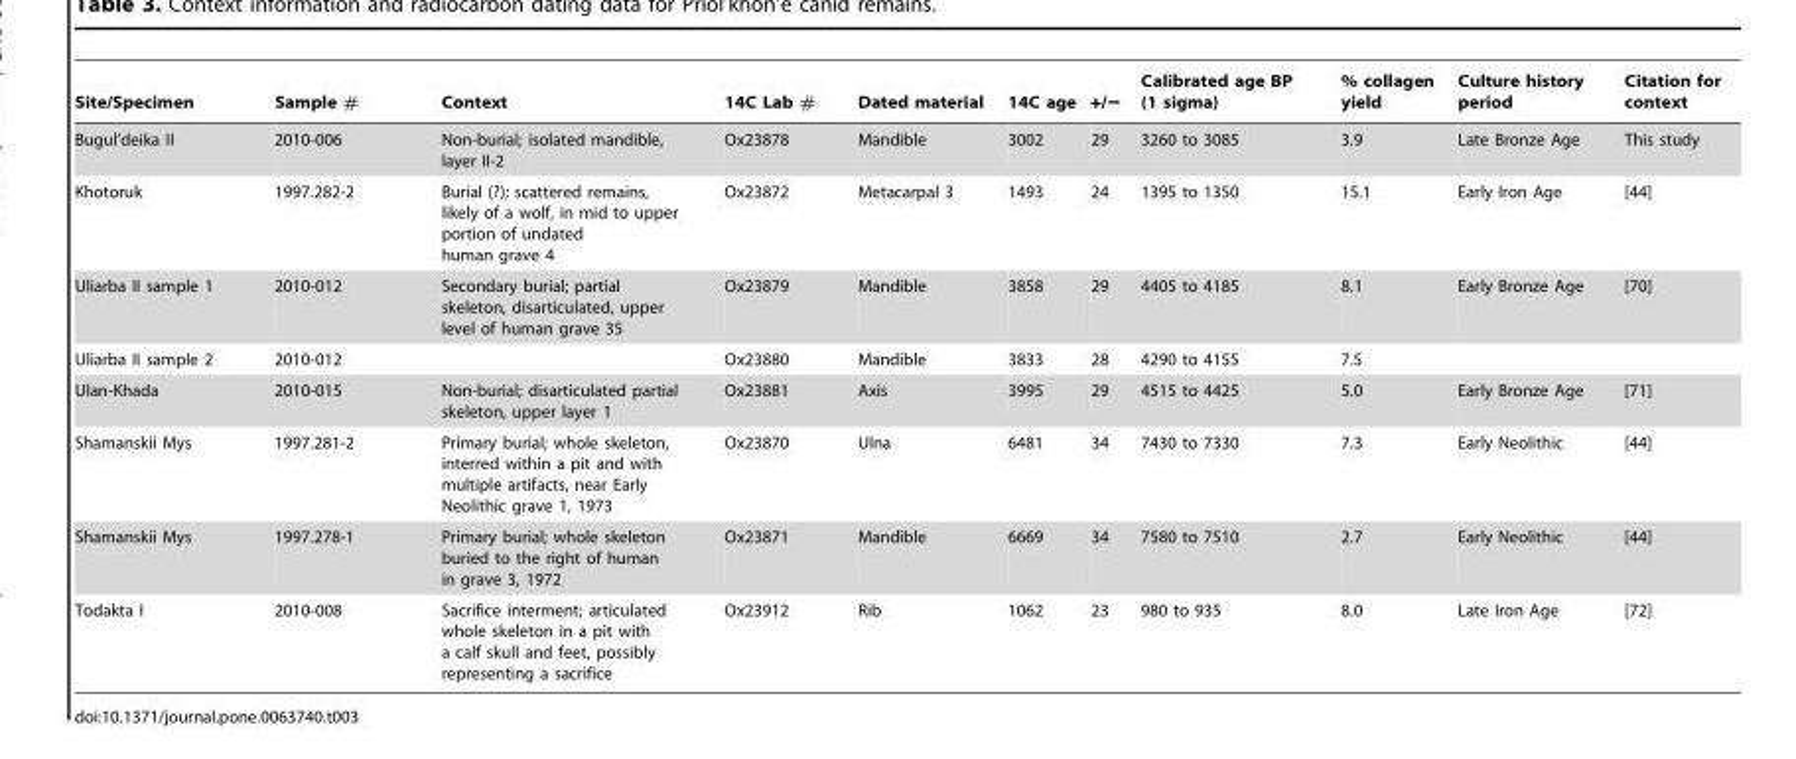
<table><thead><tr><td>Site/Specimen</td><td>Sample #</td><td>Context</td><td>14C Lab #</td><td>Dated material</td><td>14C age</td><td>+/−</td><td>Calibrated age BP (1 sigma)</td><td>% collagen yield</td><td>Culture history period</td><td>Citation for context</td></tr></thead><tbody><tr><td>Bugul’deika II</td><td>2010-006</td><td>Non-burial; isolated mandible, layer II-2</td><td>Ox23878</td><td>Mandible</td><td>3002</td><td>29</td><td>3260 to 3085</td><td>3.9</td><td>Late Bronze Age</td><td>This study</td></tr><tr><td>Khotoruk</td><td>1997.282-2</td><td>Burial (?); scattered remains, likely of a wolf, in mid to upper portion of undated human grave 4</td><td>Ox23872</td><td>Metacarpal 3</td><td>1493</td><td>24</td><td>1395 to 1350</td><td>15.1</td><td>Early Iron Age</td><td>[44]</td></tr><tr><td>Uliarba II sample 1</td><td>2010-012</td><td>Secondary burial; partial skeleton, disarticulated, upper level of human grave 35</td><td>Ox23879</td><td>Mandible</td><td>3858</td><td>29</td><td>4405 to 4185</td><td>8.1</td><td>Early Bronze Age</td><td>[70]</td></tr><tr><td>Uliarba II sample 2</td><td>2010-012</td><td></td><td>Ox23880</td><td>Mandible</td><td>3833</td><td>28</td><td>4290 to 4155</td><td>7.5</td><td></td><td></td></tr><tr><td>Ulan-Khada</td><td>2010-015</td><td>Non-burial; disarticulated partial skeleton, upper layer 1</td><td>Ox23881</td><td>Axis</td><td>3995</td><td>29</td><td>4515 to 4425</td><td>5.0</td><td>Early Bronze Age</td><td>[71]</td></tr><tr><td>Shamanskii Mys</td><td>1997.281-2</td><td>Primary burial; whole skeleton, interred within a pit and with multiple artifacts, near Early Neolithic grave 1, 1973</td><td>Ox23870</td><td>Ulna</td><td>6481</td><td>34</td><td>7430 to 7330</td><td>7.3</td><td>Early Neolithic</td><td>[44]</td></tr><tr><td>Shamanskii Mys</td><td>1997.278-1</td><td>Primary burial; whole skeleton buried to the right of human in grave 3, 1972</td><td>Ox23871</td><td>Mandible</td><td>6669</td><td>34</td><td>7580 to 7510</td><td>2.7</td><td>Early Neolithic</td><td>[44]</td></tr><tr><td>Todakta I</td><td>2010-008</td><td>Sacrifice interment; articulated whole skeleton in a pit with a calf skull and feet, possibly representing a sacrifice</td><td>Ox23912</td><td>Rib</td><td>1062</td><td>23</td><td>980 to 935</td><td>8.0</td><td>Late Iron Age</td><td>[72]</td></tr></tbody></table>